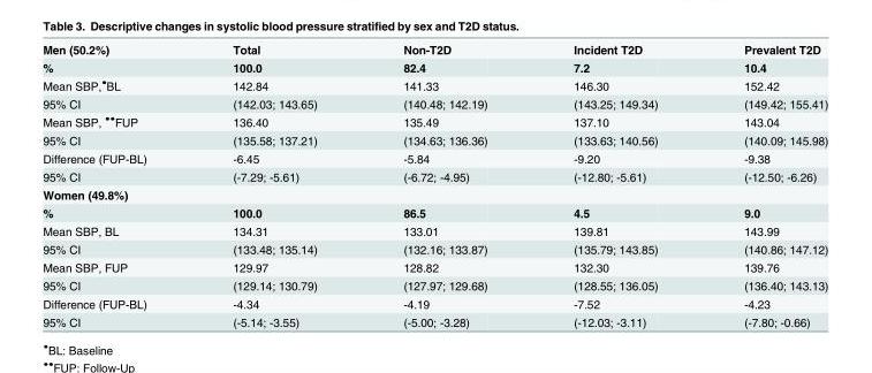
<table><tbody><tr><td>Men (50.2%)</td><td>Total</td><td>Non-T2D</td><td>Incident T2D</td><td>Prevalent T2D</td></tr><tr><td>%</td><td>100.0</td><td>82.4</td><td>7.2</td><td>10.4</td></tr><tr><td>Mean SBP,<sup>●</sup>BL</td><td>142.84</td><td>141.33</td><td>146.30</td><td>152.42</td></tr><tr><td>95% CI</td><td>(142.03; 143.65)</td><td>(140.48; 142.19)</td><td>(143.25; 149.34)</td><td>(149.42; 155.41)</td></tr><tr><td>Mean SBP, <sup>●●</sup>FUP</td><td>136.40</td><td>135.49</td><td>137.10</td><td>143.04</td></tr><tr><td>95% CI</td><td>(135.58; 137.21)</td><td>(134.63; 136.36)</td><td>(133.63; 140.56)</td><td>(140.09; 145.98)</td></tr><tr><td>Difference (FUP-BL)</td><td>-6.45</td><td>-5.84</td><td>-9.20</td><td>-9.38</td></tr><tr><td>95% CI</td><td>(-7.29; -5.61)</td><td>(-6.72; -4.95)</td><td>(-12.80; -5.61)</td><td>(-12.50; -6.26)</td></tr><tr><td colspan="5">Women (49.8%)</td></tr><tr><td>%</td><td>100.0</td><td>86.5</td><td>4.5</td><td>9.0</td></tr><tr><td>Mean SBP, BL</td><td>134.31</td><td>133.01</td><td>139.81</td><td>143.99</td></tr><tr><td>95% CI</td><td>(133.48; 135.14)</td><td>(132.16; 133.87)</td><td>(135.79; 143.85)</td><td>(140.86; 147.12)</td></tr><tr><td>Mean SBP, FUP</td><td>129.97</td><td>128.82</td><td>132.30</td><td>139.76</td></tr><tr><td>95% CI</td><td>(129.14; 130.79)</td><td>(127.97; 129.68)</td><td>(128.55; 136.05)</td><td>(136.40; 143.13)</td></tr><tr><td>Difference (FUP-BL)</td><td>-4.34</td><td>-4.19</td><td>-7.52</td><td>-4.23</td></tr><tr><td>95% CI</td><td>(-5.14; -3.55)</td><td>(-5.00; -3.28)</td><td>(-12.03; -3.11)</td><td>(-7.80; -0.66)</td></tr></tbody></table>